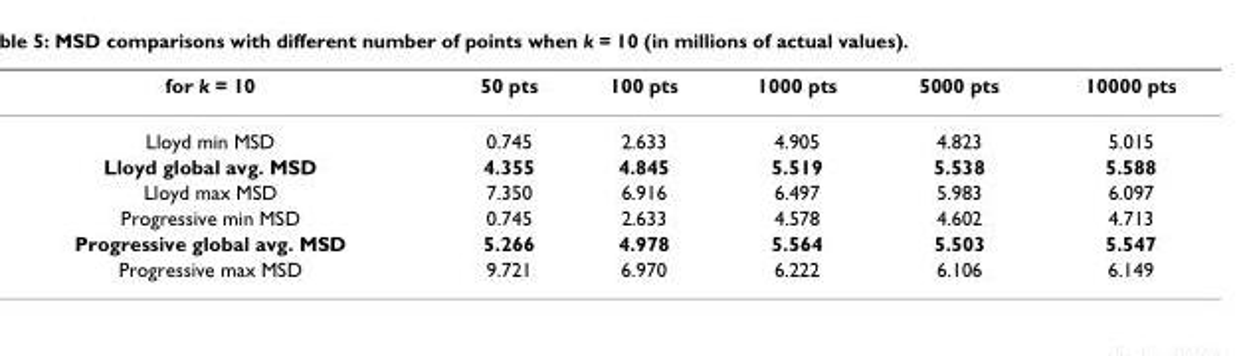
<table><thead><tr><td>for k = 10</td><td>50 pts</td><td>100 pts</td><td>1000 pts</td><td>5000 pts</td><td>10000 pts</td></tr></thead><tbody><tr><td>Lloyd min MSD</td><td>0.745</td><td>2.633</td><td>4.905</td><td>4.823</td><td>5.015</td></tr><tr><td>Lloyd global avg. MSD</td><td>4.355</td><td>4.845</td><td>5.519</td><td>5.538</td><td>5.588</td></tr><tr><td>Lloyd max MSD</td><td>7.350</td><td>6.916</td><td>6.497</td><td>5.983</td><td>6.097</td></tr><tr><td>Progressive min MSD</td><td>0.745</td><td>2.633</td><td>4.578</td><td>4.602</td><td>4.713</td></tr><tr><td>Progressive global avg. MSD</td><td>5.266</td><td>4.978</td><td>5.564</td><td>5.503</td><td>5.547</td></tr><tr><td>Progressive max MSD</td><td>9.721</td><td>6.970</td><td>6.222</td><td>6.106</td><td>6.149</td></tr></tbody></table>